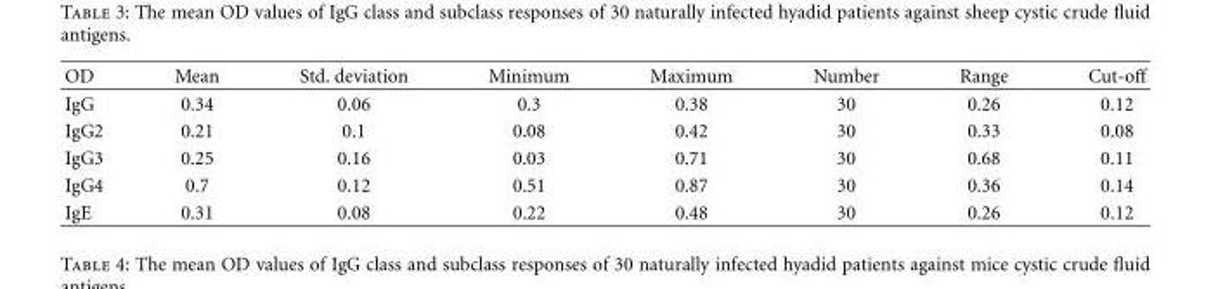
<table><thead><tr><td>OD</td><td>Mean</td><td>Std. deviation</td><td>Minimum</td><td>Maximum</td><td>Number</td><td>Range</td><td>Cut-off</td></tr></thead><tbody><tr><td>IgG</td><td>0.34</td><td>0.06</td><td>0.3</td><td>0.38</td><td>30</td><td>0.26</td><td>0.12</td></tr><tr><td>IgG2</td><td>0.21</td><td>0.1</td><td>0.08</td><td>0.42</td><td>30</td><td>0.33</td><td>0.08</td></tr><tr><td>IgG3</td><td>0.25</td><td>0.16</td><td>0.03</td><td>0.71</td><td>30</td><td>0.68</td><td>0.11</td></tr><tr><td>IgG4</td><td>0.7</td><td>0.12</td><td>0.51</td><td>0.87</td><td>30</td><td>0.36</td><td>0.14</td></tr><tr><td>IgE</td><td>0.31</td><td>0.08</td><td>0.22</td><td>0.48</td><td>30</td><td>0.26</td><td>0.12</td></tr></tbody></table>